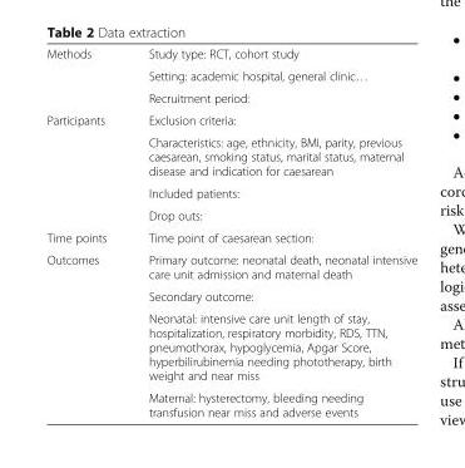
<table><tbody><tr><td rowspan="3">Methods</td><td>Study type: RCT, cohort study</td></tr><tr><td>Setting: academic hospital, general clinic…</td></tr><tr><td>Recruitment period:</td></tr><tr><td rowspan="4">Participants</td><td>Exclusion criteria:</td></tr><tr><td>Characteristics: age, ethnicity, BMI, parity, previous caesarean, smoking status, marital status, maternal disease and indication for caesarean</td></tr><tr><td>Included patients:</td></tr><tr><td>Drop outs:</td></tr><tr><td>Time points</td><td>Time point of caesarean section:</td></tr><tr><td rowspan="4">Outcomes</td><td>Primary outcome: neonatal death, neonatal intensive care unit admission and maternal death</td></tr><tr><td>Secondary outcome:</td></tr><tr><td>Neonatal: intensive care unit length of stay, hospitalization, respiratory morbidity, RDS, TTN, pneumothorax, hypoglycemia, Apgar Score, hyperbilirubinemia needing phototherapy, birth weight and near miss</td></tr><tr><td>Maternal: hysterectomy, bleeding needing transfusion near miss and adverse events</td></tr></tbody></table>